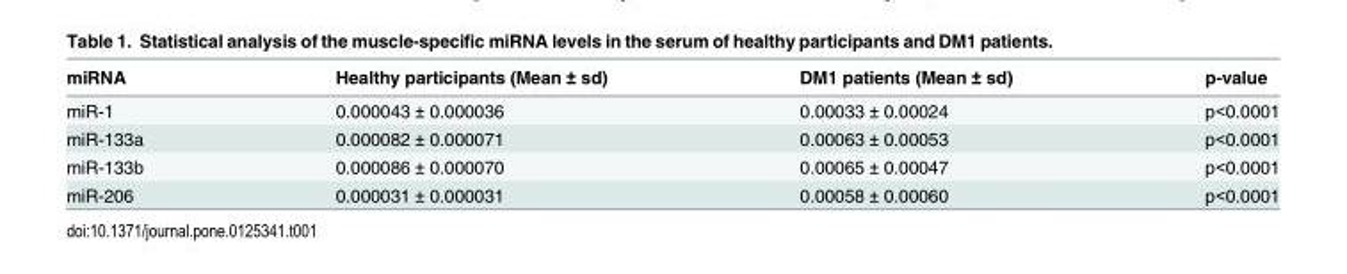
<table><thead><tr><td>miRNA</td><td>Healthy participants (Mean ± sd)</td><td>DM1 patients (Mean ± sd)</td><td>p-value</td></tr></thead><tbody><tr><td>miR-1</td><td>0.000043 ± 0.000036</td><td>0.00033 ± 0.00024</td><td>p&lt;0.0001</td></tr><tr><td>miR-133a</td><td>0.000082 ± 0.000071</td><td>0.00063 ± 0.00053</td><td>p&lt;0.0001</td></tr><tr><td>miR-133b</td><td>0.000086 ± 0.000070</td><td>0.00065 ± 0.00047</td><td>p&lt;0.0001</td></tr><tr><td>miR-206</td><td>0.000031 ± 0.000031</td><td>0.00058 ± 0.00060</td><td>p&lt;0.0001</td></tr></tbody></table>